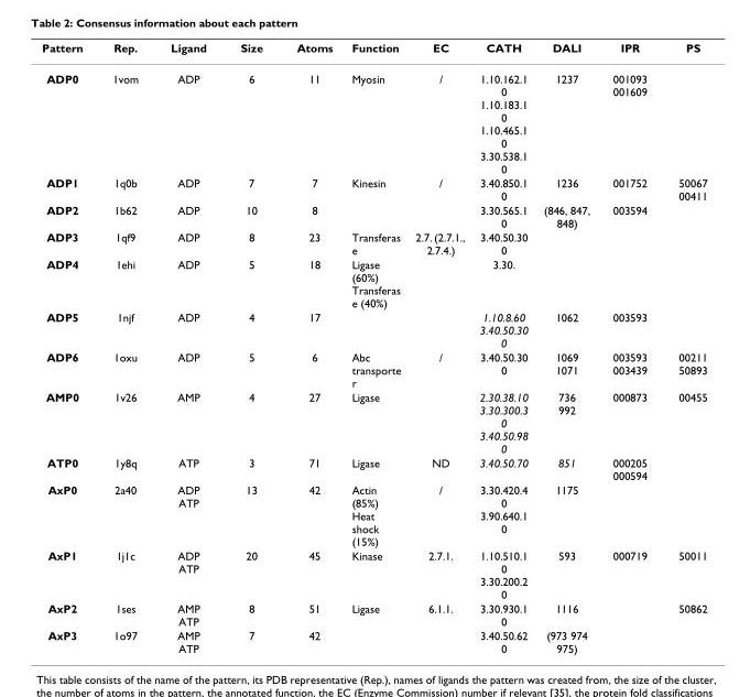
<table><thead><tr><td>Pattern</td><td>Rep.</td><td>Ligand</td><td>Size</td><td>Atoms</td><td>Function</td><td>EC</td><td>CATH</td><td>DALI</td><td>IPR</td><td>PS</td></tr></thead><tbody><tr><td>ADP0</td><td>1vom</td><td>ADP</td><td>6</td><td>11</td><td>Myosin</td><td>/</td><td>1.10.162.1 0 1.10.183.1 0 1.10.465.1 0 3.30.538.1 0</td><td>1237</td><td>001093 001609</td><td></td></tr><tr><td>ADP1</td><td>1q0b</td><td>ADP</td><td>7</td><td>7</td><td>Kinesin</td><td>/</td><td>3.40.850.1 0</td><td>1236</td><td>001752</td><td>50067 00411</td></tr><tr><td>ADP2</td><td>1b62</td><td>ADP</td><td>10</td><td>8</td><td></td><td></td><td>3.30.565.1 0</td><td>(846, 847, 848)</td><td>003594</td><td></td></tr><tr><td>ADP3</td><td>1qf9</td><td>ADP</td><td>8</td><td>23</td><td>Transferas e</td><td>2.7. (2.7.1., 2.7.4.)</td><td>3.40.50.30 0</td><td></td><td></td><td></td></tr><tr><td>ADP4</td><td>1ehi</td><td>ADP</td><td>5</td><td>18</td><td>Ligase (60%) Transferas e (40%)</td><td></td><td>3.30.</td><td></td><td></td><td></td></tr><tr><td>ADP5</td><td>1njf</td><td>ADP</td><td>4</td><td>17</td><td></td><td></td><td>1.10.8.60 3.40.50.30 0</td><td>1062</td><td>003593</td><td></td></tr><tr><td>ADP6</td><td>1oxu</td><td>ADP</td><td>5</td><td>6</td><td>Abc transporte r</td><td>/</td><td>3.40.50.30 0</td><td>1069 1071</td><td>003593 003439</td><td>00211 50893</td></tr><tr><td>AMP0</td><td>1v26</td><td>AMP</td><td>4</td><td>27</td><td>Ligase</td><td></td><td>2.30.38.10 3.30.300.3 0 3.40.50.98 0</td><td>736 992</td><td>000873</td><td>00455</td></tr><tr><td>ATP0</td><td>1y8q</td><td>ATP</td><td>3</td><td>71</td><td>Ligase</td><td>ND</td><td>3.40.50.70</td><td>851</td><td>000205 000594</td><td></td></tr><tr><td>AxP0</td><td>2a40</td><td>ADP ATP</td><td>13</td><td>42</td><td>Actin (85%) Heat shock (15%)</td><td>/</td><td>3.30.420.4 0 3.90.640.1 0</td><td>1175</td><td></td><td></td></tr><tr><td>AxP1</td><td>1j1c</td><td>ADP ATP</td><td>20</td><td>45</td><td>Kinase</td><td>2.7.1.</td><td>1.10.510.1 0 3.30.200.2 0</td><td>593</td><td>000719</td><td>50011</td></tr><tr><td>AxP2</td><td>1ses</td><td>AMP ATP</td><td>8</td><td>51</td><td>Ligase</td><td>6.1.1.</td><td>3.30.930.1 0</td><td>1116</td><td></td><td>50862</td></tr><tr><td>AxP3</td><td>1o97</td><td>AMP ATP</td><td>7</td><td>42</td><td></td><td></td><td>3.40.50.62 0</td><td>(973 974 975)</td><td></td><td></td></tr></tbody></table>